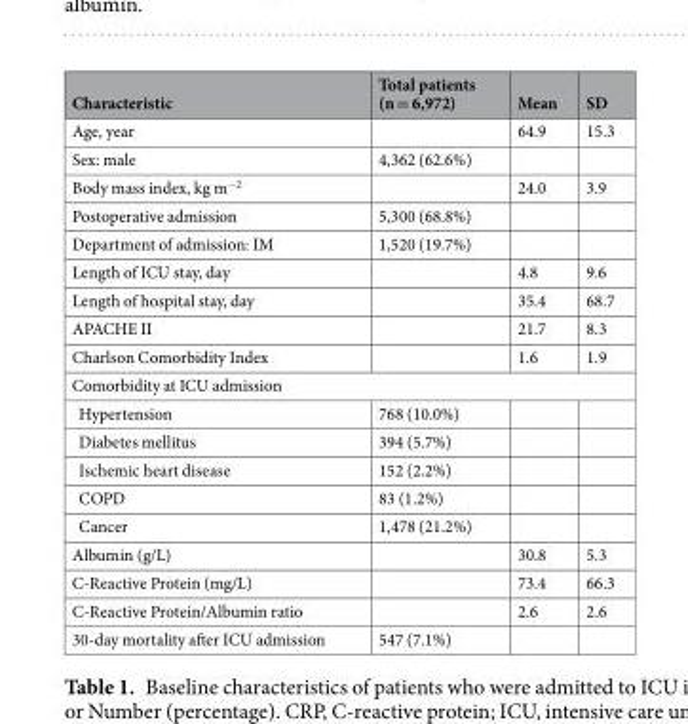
<table><thead><tr><td>Characteristic</td><td>Total patients (n = 6,972)</td><td>Mean</td><td>SD</td></tr></thead><tbody><tr><td>Age, year</td><td></td><td>64.9</td><td>15.3</td></tr><tr><td>Sex: male</td><td>4,362 (62.6%)</td><td></td><td></td></tr><tr><td>Body mass index, kg m<sup>−2</sup></td><td></td><td>24.0</td><td>3.9</td></tr><tr><td>Postoperative admission</td><td>5,300 (68.8%)</td><td></td><td></td></tr><tr><td>Department of admission: IM</td><td>1,520 (19.7%)</td><td></td><td></td></tr><tr><td>Length of ICU stay, day</td><td></td><td>4.8</td><td>9.6</td></tr><tr><td>Length of hospital stay, day</td><td></td><td>35.4</td><td>68.7</td></tr><tr><td>APACHE II</td><td></td><td>21.7</td><td>8.3</td></tr><tr><td>Charlson Comorbidity Index</td><td></td><td>1.6</td><td>1.9</td></tr><tr><td colspan="4">Comorbidity at ICU admission</td></tr><tr><td>Hypertension</td><td>768 (10.0%)</td><td></td><td></td></tr><tr><td>Diabetes mellitus</td><td>394 (5.7%)</td><td></td><td></td></tr><tr><td>Ischemic heart disease</td><td>152 (2.2%)</td><td></td><td></td></tr><tr><td>COPD</td><td>83 (1.2%)</td><td></td><td></td></tr><tr><td>Cancer</td><td>1,478 (21.2%)</td><td></td><td></td></tr><tr><td>Albumin (g/L)</td><td></td><td>30.8</td><td>5.3</td></tr><tr><td>C-Reactive Protein (mg/L)</td><td></td><td>73.4</td><td>66.3</td></tr><tr><td>C-Reactive Protein/Albumin ratio</td><td></td><td>2.6</td><td>2.6</td></tr><tr><td>30-day mortality after ICU admission</td><td>547 (7.1%)</td><td></td><td></td></tr></tbody></table>